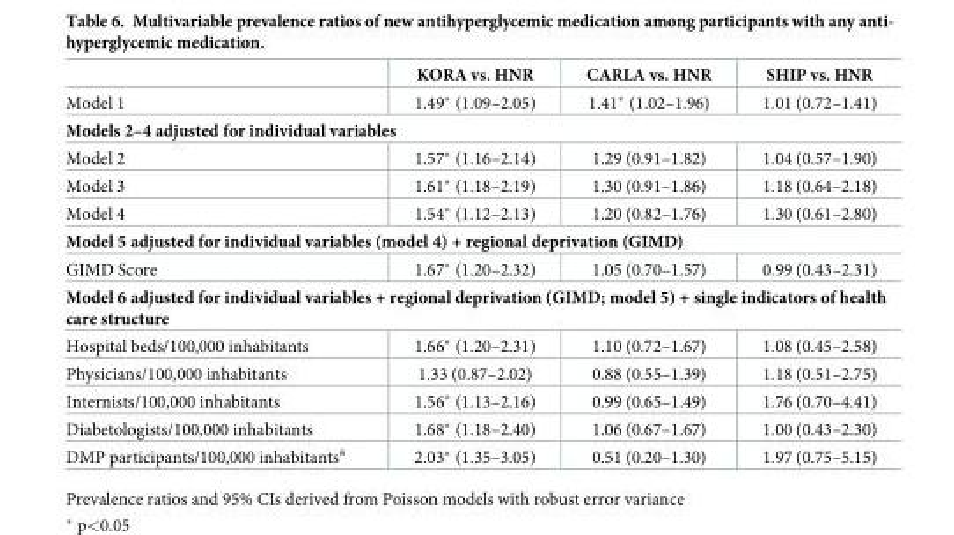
<table><thead><tr><td></td><td>KORA vs. HNR</td><td>CARLA vs. HNR</td><td>SHIP vs. HNR</td></tr></thead><tbody><tr><td>Model 1</td><td>1.49* (1.09–2.05)</td><td>1.41* (1.02–1.96)</td><td>1.01 (0.72–1.41)</td></tr><tr><td colspan="4">Models 2–4 adjusted for individual variables</td></tr><tr><td>Model 2</td><td>1.57* (1.16–2.14)</td><td>1.29 (0.91–1.82)</td><td>1.04 (0.57–1.90)</td></tr><tr><td>Model 3</td><td>1.61* (1.18–2.19)</td><td>1.30 (0.91–1.86)</td><td>1.18 (0.64–2.18)</td></tr><tr><td>Model 4</td><td>1.54* (1.12–2.13)</td><td>1.20 (0.82–1.76)</td><td>1.30 (0.61–2.80)</td></tr><tr><td colspan="4">Model 5 adjusted for individual variables (model 4) + regional deprivation (GIMD)</td></tr><tr><td>GIMD Score</td><td>1.67* (1.20–2.32)</td><td>1.05 (0.70–1.57)</td><td>0.99 (0.43–2.31)</td></tr><tr><td colspan="4">Model 6 adjusted for individual variables + regional deprivation (GIMD; model 5) + single indicators of health care structure</td></tr><tr><td>Hospital beds/100,000 inhabitants</td><td>1.66* (1.20–2.31)</td><td>1.10 (0.72–1.67)</td><td>1.08 (0.45–2.58)</td></tr><tr><td>Physicians/100,000 inhabitants</td><td>1.33 (0.87–2.02)</td><td>0.88 (0.55–1.39)</td><td>1.18 (0.51–2.75)</td></tr><tr><td>Internists/100,000 inhabitants</td><td>1.56* (1.13–2.16)</td><td>0.99 (0.65–1.49)</td><td>1.76 (0.70–4.41)</td></tr><tr><td>Diabetologists/100,000 inhabitants</td><td>1.68* (1.18–2.40)</td><td>1.06 (0.67–1.67)</td><td>1.00 (0.43–2.30)</td></tr><tr><td>DMP participants/100,000 inhabitants<sup>a</sup></td><td>2.03* (1.35–3.05)</td><td>0.51 (0.20–1.30)</td><td>1.97 (0.75–5.15)</td></tr></tbody></table>